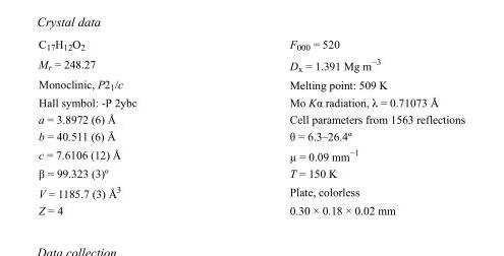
<table><tbody><tr><td>C<sub>17</sub>H<sub>12</sub>O<sub>2</sub></td><td>F000 = 520</td></tr><tr><td>M<sub>r</sub> = 248.27</td><td>D<sub>x</sub> = 1.391 Mg m<sup>−3</sup></td></tr><tr><td>Monoclinic, P2<sub>1</sub>/c</td><td>Melting point: 509 K</td></tr><tr><td>Hall symbol: -P 2ybc</td><td>Mo Kα radiation, λ = 0.71073 Å</td></tr><tr><td>a = 3.8972 (6) Å</td><td>Cell parameters from 1563 reflections</td></tr><tr><td>b = 40.511 (6) Å</td><td>θ = 6.3–26.4º</td></tr><tr><td>c = 7.6106 (12) Å</td><td>µ = 0.09 mm<sup>−1</sup></td></tr><tr><td>β = 99.323 (3)º</td><td>T = 150 K</td></tr><tr><td>V = 1185.7 (3) Å<sup>3</sup></td><td>Plate, colorless</td></tr><tr><td>Z = 4</td><td>0.30 × 0.18 × 0.02 mm</td></tr></tbody></table>